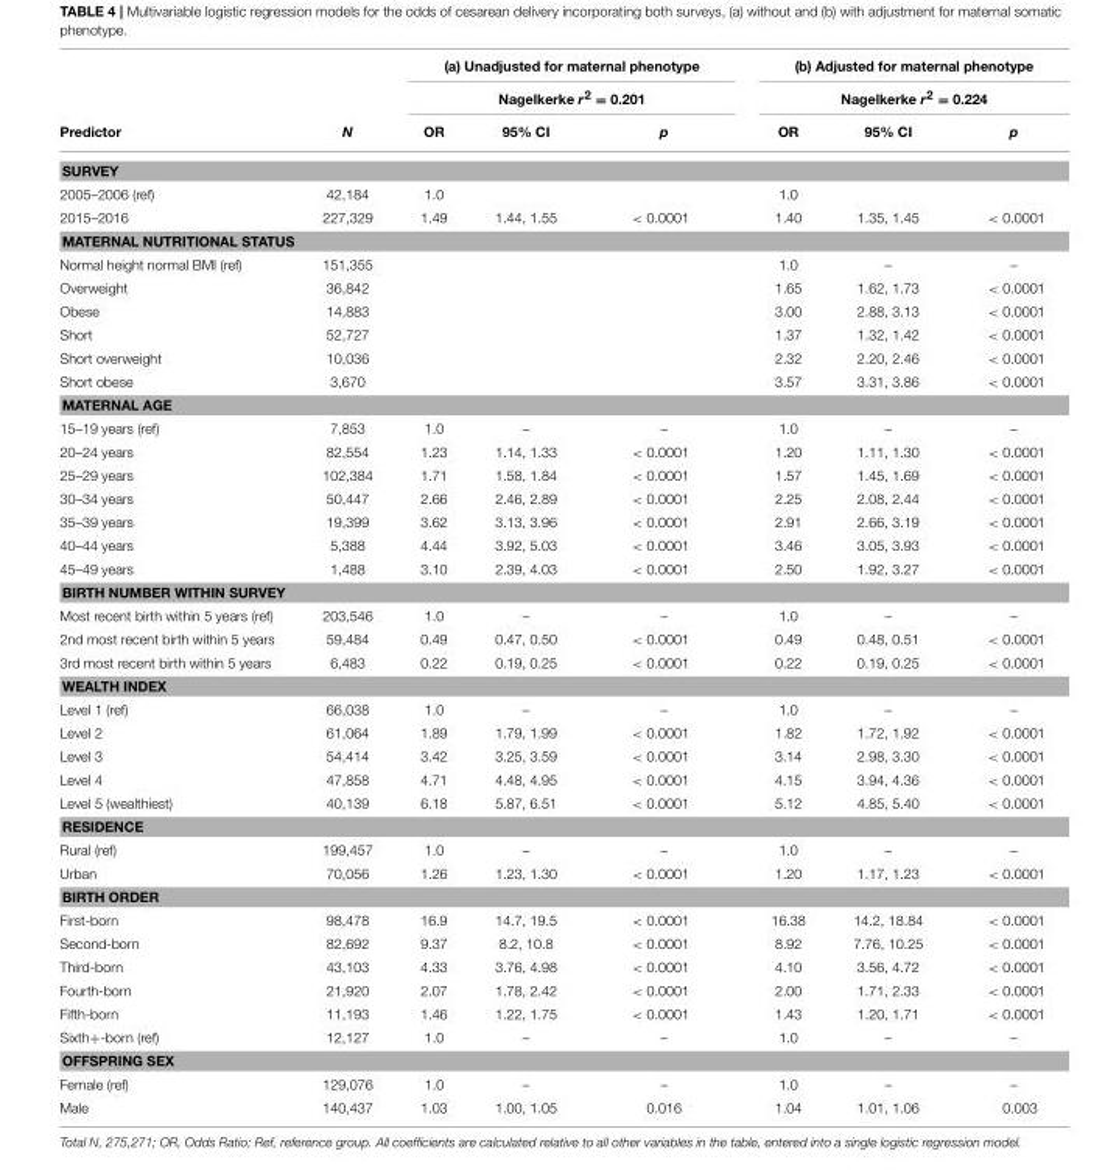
<table><thead><tr><td rowspan="3">Predictor</td><td rowspan="3">N</td><td rowspan="2" colspan="3">(a) Unadjusted for maternal phenotype Nagelkerke r<sup>2</sup> = 0.201</td><td rowspan="2" colspan="3">(b) Adjusted for maternal phenotype Nagelkerke r<sup>2</sup> = 0.224</td></tr><tr></tr><tr><td>OR</td><td>95% CI</td><td>p</td><td>OR</td><td>95% CI</td><td>p</td></tr></thead><tbody><tr><td colspan="8">SURVEY</td></tr><tr><td>2005–2006 (ref)</td><td>42,184</td><td>1.0</td><td></td><td></td><td>1.0</td><td></td><td></td></tr><tr><td>2015–2016</td><td>227,329</td><td>1.49</td><td>1.44, 1.55</td><td>&lt; 0.0001</td><td>1.40</td><td>1.35, 1.45</td><td>&lt; 0.0001</td></tr><tr><td colspan="8">MATERNAL NUTRITIONAL STATUS</td></tr><tr><td>Normal height normal BMI (ref)</td><td>151,355</td><td></td><td></td><td></td><td>1.0</td><td>–</td><td>–</td></tr><tr><td>Overweight</td><td>36,842</td><td></td><td></td><td></td><td>1.65</td><td>1.62, 1.73</td><td>&lt; 0.0001</td></tr><tr><td>Obese</td><td>14,883</td><td></td><td></td><td></td><td>3.00</td><td>2.88, 3.13</td><td>&lt; 0.0001</td></tr><tr><td>Short</td><td>52,727</td><td></td><td></td><td></td><td>1.37</td><td>1.32, 1.42</td><td>&lt; 0.0001</td></tr><tr><td>Short overweight</td><td>10,036</td><td></td><td></td><td></td><td>2.32</td><td>2.20, 2.46</td><td>&lt; 0.0001</td></tr><tr><td>Short obese</td><td>3,670</td><td></td><td></td><td></td><td>3.57</td><td>3.31, 3.86</td><td>&lt; 0.0001</td></tr><tr><td colspan="8">MATERNAL AGE</td></tr><tr><td>15–19 years (ref)</td><td>7,853</td><td>1.0</td><td>–</td><td>–</td><td>1.0</td><td>–</td><td>–</td></tr><tr><td>20–24 years</td><td>82,554</td><td>1.23</td><td>1.14, 1.33</td><td>&lt; 0.0001</td><td>1.20</td><td>1.11, 1.30</td><td>&lt; 0.0001</td></tr><tr><td>25–29 years</td><td>102,384</td><td>1.71</td><td>1.58, 1.84</td><td>&lt; 0.0001</td><td>1.57</td><td>1.45, 1.69</td><td>&lt; 0.0001</td></tr><tr><td>30–34 years</td><td>50,447</td><td>2.66</td><td>2.46, 2.89</td><td>&lt; 0.0001</td><td>2.25</td><td>2.08, 2.44</td><td>&lt; 0.0001</td></tr><tr><td>35–39 years</td><td>19,399</td><td>3.62</td><td>3.13, 3.96</td><td>&lt; 0.0001</td><td>2.91</td><td>2.66, 3.19</td><td>&lt; 0.0001</td></tr><tr><td>40–44 years</td><td>5,388</td><td>4.44</td><td>3.92, 5.03</td><td>&lt; 0.0001</td><td>3.46</td><td>3.05, 3.93</td><td>&lt; 0.0001</td></tr><tr><td>45–49 years</td><td>1,488</td><td>3.10</td><td>2.39, 4.03</td><td>&lt; 0.0001</td><td>2.50</td><td>1.92, 3.27</td><td>&lt; 0.0001</td></tr><tr><td colspan="8">BIRTH NUMBER WITHIN SURVEY</td></tr><tr><td>Most recent birth within 5 years (ref)</td><td>203,546</td><td>1.0</td><td>–</td><td>–</td><td>1.0</td><td>–</td><td>–</td></tr><tr><td>2nd most recent birth within 5 years</td><td>59,484</td><td>0.49</td><td>0.47, 0.50</td><td>&lt; 0.0001</td><td>0.49</td><td>0.48, 0.51</td><td>&lt; 0.0001</td></tr><tr><td>3rd most recent birth within 5 years</td><td>6,483</td><td>0.22</td><td>0.19, 0.25</td><td>&lt; 0.0001</td><td>0.22</td><td>0.19, 0.25</td><td>&lt; 0.0001</td></tr><tr><td colspan="8">WEALTH INDEX</td></tr><tr><td>Level 1 (ref)</td><td>66,038</td><td>1.0</td><td>–</td><td>–</td><td>1.0</td><td>–</td><td>–</td></tr><tr><td>Level 2</td><td>61,064</td><td>1.89</td><td>1.79, 1.99</td><td>&lt; 0.0001</td><td>1.82</td><td>1.72, 1.92</td><td>&lt; 0.0001</td></tr><tr><td>Level 3</td><td>54,414</td><td>3.42</td><td>3.25, 3.59</td><td>&lt; 0.0001</td><td>3.14</td><td>2.98, 3.30</td><td>&lt; 0.0001</td></tr><tr><td>Level 4</td><td>47,858</td><td>4.71</td><td>4.48, 4.95</td><td>&lt; 0.0001</td><td>4.15</td><td>3.94, 4.36</td><td>&lt; 0.0001</td></tr><tr><td>Level 5 (wealthiest)</td><td>40,139</td><td>6.18</td><td>5.87, 6.51</td><td>&lt; 0.0001</td><td>5.12</td><td>4.85, 5.40</td><td>&lt; 0.0001</td></tr><tr><td colspan="8">RESIDENCE</td></tr><tr><td>Rural (ref)</td><td>199,457</td><td>1.0</td><td>–</td><td>–</td><td>1.0</td><td>–</td><td>–</td></tr><tr><td>Urban</td><td>70,056</td><td>1.26</td><td>1.23, 1.30</td><td>&lt; 0.0001</td><td>1.20</td><td>1.17, 1.23</td><td>&lt; 0.0001</td></tr><tr><td colspan="8">BIRTH ORDER</td></tr><tr><td>First-born</td><td>98,478</td><td>16.9</td><td>14.7, 19.5</td><td>&lt; 0.0001</td><td>16.38</td><td>14.2, 18.84</td><td>&lt; 0.0001</td></tr><tr><td>Second-born</td><td>82,692</td><td>9.37</td><td>8.2, 10.8</td><td>&lt; 0.0001</td><td>8.92</td><td>7.76, 10.25</td><td>&lt; 0.0001</td></tr><tr><td>Third-born</td><td>43,103</td><td>4.33</td><td>3.76, 4.98</td><td>&lt; 0.0001</td><td>4.10</td><td>3.56, 4.72</td><td>&lt; 0.0001</td></tr><tr><td>Fourth-born</td><td>21,920</td><td>2.07</td><td>1.78, 2.42</td><td>&lt; 0.0001</td><td>2.00</td><td>1.71, 2.33</td><td>&lt; 0.0001</td></tr><tr><td>Fifth-born</td><td>11,193</td><td>1.46</td><td>1.22, 1.75</td><td>&lt; 0.0001</td><td>1.43</td><td>1.20, 1.71</td><td>&lt; 0.0001</td></tr><tr><td>Sixth+-born (ref)</td><td>12,127</td><td>1.0</td><td>–</td><td>–</td><td>1.0</td><td>–</td><td>–</td></tr><tr><td colspan="8">OFFSPRING SEX</td></tr><tr><td>Female (ref)</td><td>129,076</td><td>1.0</td><td>–</td><td>–</td><td>1.0</td><td>–</td><td>–</td></tr><tr><td>Male</td><td>140,437</td><td>1.03</td><td>1.00, 1.05</td><td>0.016</td><td>1.04</td><td>1.01, 1.06</td><td>0.003</td></tr></tbody></table>